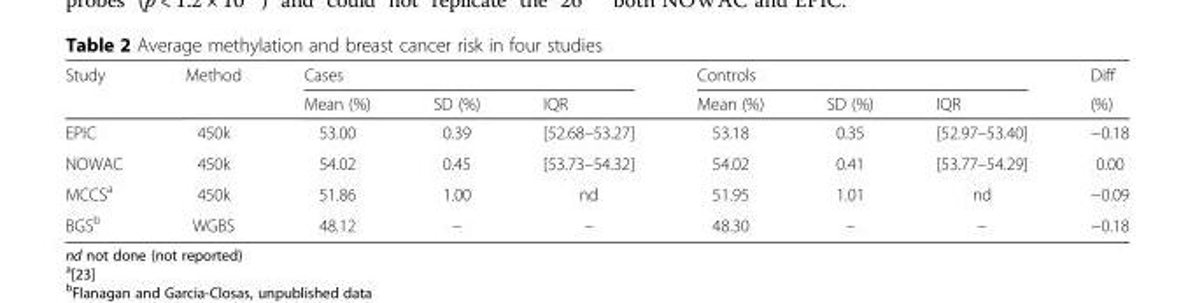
<table><thead><tr><td rowspan="2">Study</td><td rowspan="2">Method</td><td colspan="3">Cases</td><td colspan="3">Controls</td><td rowspan="2">Diff (%)</td></tr><tr><td>Mean (%)</td><td>SD (%)</td><td>IQR</td><td>Mean (%)</td><td>SD (%)</td><td>IQR</td></tr></thead><tbody><tr><td>EPIC</td><td>450k</td><td>53.00</td><td>0.39</td><td>[52.68–53.27]</td><td>53.18</td><td>0.35</td><td>[52.97–53.40]</td><td>−0.18</td></tr><tr><td>NOWAC</td><td>450k</td><td>54.02</td><td>0.45</td><td>[53.73–54.32]</td><td>54.02</td><td>0.41</td><td>[53.77–54.29]</td><td>0.00</td></tr><tr><td>MCCS<sup>a</sup></td><td>450k</td><td>51.86</td><td>1.00</td><td>nd</td><td>51.95</td><td>1.01</td><td>nd</td><td>−0.09</td></tr><tr><td>BGS<sup>b</sup></td><td>WGBS</td><td>48.12</td><td>–</td><td>–</td><td>48.30</td><td>–</td><td>–</td><td>−0.18</td></tr></tbody></table>